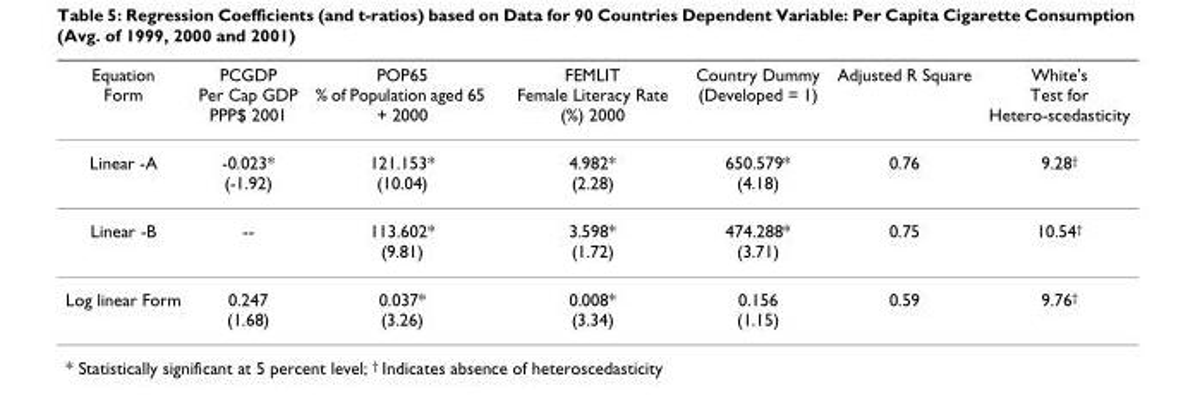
<table><thead><tr><td>Equation Form</td><td>PCGDP Per Cap GDP PPP$ 2001</td><td>POP65 % of Population aged 65 + 2000</td><td>FEMLIT Female Literacy Rate (%) 2000</td><td>Country Dummy (Developed = 1)</td><td>Adjusted R Square</td><td>White&#x27;s Test for Hetero-scedasticity</td></tr></thead><tbody><tr><td>Linear -A</td><td>-0.023* (-1.92)</td><td>121.153* (10.04)</td><td>4.982* (2.28)</td><td>650.579* (4.18)</td><td>0.76</td><td>9.28<sup>†</sup></td></tr><tr><td>Linear -B</td><td>--</td><td>113.602* (9.81)</td><td>3.598* (1.72)</td><td>474.288* (3.71)</td><td>0.75</td><td>10.54<sup>†</sup></td></tr><tr><td>Log linear Form</td><td>0.247 (1.68)</td><td>0.037* (3.26)</td><td>0.008* (3.34)</td><td>0.156 (1.15)</td><td>0.59</td><td>9.76<sup>†</sup></td></tr></tbody></table>